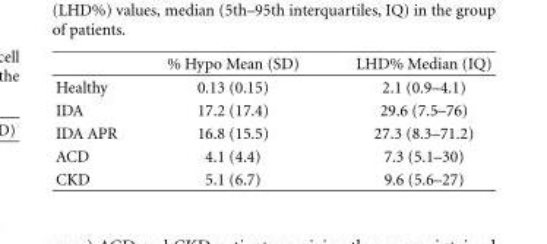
<table><thead><tr><td></td><td>% Hypo Mean (SD)</td><td>LHD% Median (IQ)</td></tr></thead><tbody><tr><td>Healthy</td><td>0.13 (0.15)</td><td>2.1 (0.9–4.1)</td></tr><tr><td>IDA</td><td>17.2 (17.4)</td><td>29.6 (7.5–76)</td></tr><tr><td>IDA APR</td><td>16.8 (15.5)</td><td>27.3 (8.3–71.2)</td></tr><tr><td>ACD</td><td>4.1 (4.4)</td><td>7.3 (5.1–30)</td></tr><tr><td>CKD</td><td>5.1 (6.7)</td><td>9.6 (5.6–27)</td></tr></tbody></table>